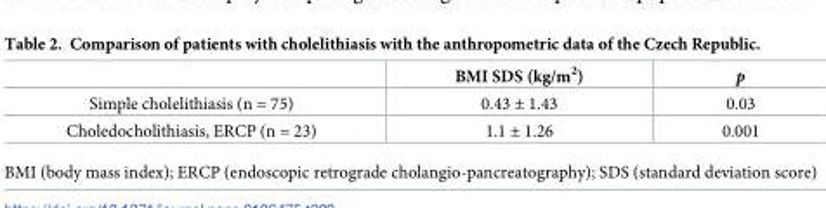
<table><thead><tr><td></td><td>BMI SDS (kg/m<sup>2</sup>)</td><td>p</td></tr></thead><tbody><tr><td>Simple cholelithiasis (n = 75)</td><td>0.43 ± 1.43</td><td>0.03</td></tr><tr><td>Choledocholithiasis, ERCP (n = 23)</td><td>1.1 ± 1.26</td><td>0.001</td></tr></tbody></table>